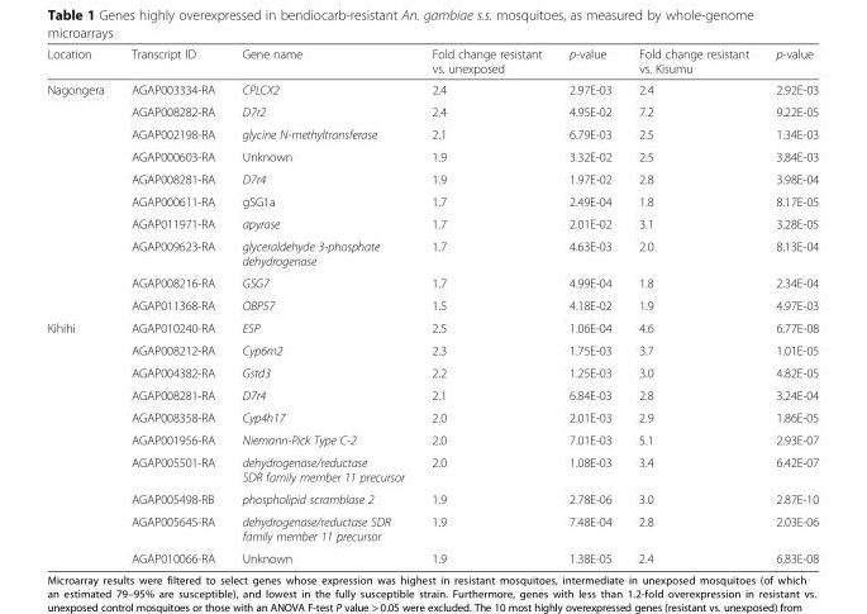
<table><thead><tr><td>Location</td><td>Transcript ID</td><td>Gene name</td><td>Fold change resistant vs. unexposed</td><td>p-value</td><td>Fold change resistant vs. Kisumu</td><td>p-value</td></tr></thead><tbody><tr><td rowspan="10">Nagongera</td><td>AGAP003334-RA</td><td>CPLCX2</td><td>2.4</td><td>2.97E-03</td><td>2.4</td><td>2.92E-03</td></tr><tr><td>AGAP008282-RA</td><td>D7r2</td><td>2.4</td><td>4.95E-02</td><td>7.2</td><td>9.22E-05</td></tr><tr><td>AGAP002198-RA</td><td>glycine N-methyltransferase</td><td>2.1</td><td>6.79E-03</td><td>2.5</td><td>1.34E-03</td></tr><tr><td>AGAP000603-RA</td><td>Unknown</td><td>1.9</td><td>3.32E-02</td><td>2.5</td><td>3.84E-03</td></tr><tr><td>AGAP008281-RA</td><td>D7r4</td><td>1.9</td><td>1.97E-02</td><td>2.8</td><td>3.98E-04</td></tr><tr><td>AGAP000611-RA</td><td>gSG1a</td><td>1.7</td><td>2.49E-04</td><td>1.8</td><td>8.17E-05</td></tr><tr><td>AGAP011971-RA</td><td>apyrase</td><td>1.7</td><td>2.01E-02</td><td>3.1</td><td>3.28E-05</td></tr><tr><td>AGAP009623-RA</td><td>glyceraldehyde 3-phosphate dehydrogenase</td><td>1.7</td><td>4.63E-03</td><td>2.0</td><td>8.13E-04</td></tr><tr><td>AGAP008216-RA</td><td>GSG7</td><td>1.7</td><td>4.99E-04</td><td>1.8</td><td>2.34E-04</td></tr><tr><td>AGAP011368-RA</td><td>OBP57</td><td>1.5</td><td>4.18E-02</td><td>1.9</td><td>4.97E-03</td></tr><tr><td rowspan="10">Kihihi</td><td>AGAP010240-RA</td><td>ESP</td><td>2.5</td><td>1.06E-04</td><td>4.6</td><td>6.77E-08</td></tr><tr><td>AGAP008212-RA</td><td>Cyp6m2</td><td>2.3</td><td>1.75E-03</td><td>3.7</td><td>1.01E-05</td></tr><tr><td>AGAP004382-RA</td><td>Gstd3</td><td>2.2</td><td>1.25E-03</td><td>3.0</td><td>4.82E-05</td></tr><tr><td>AGAP008281-RA</td><td>D7r4</td><td>2.1</td><td>6.84E-03</td><td>2.8</td><td>3.24E-04</td></tr><tr><td>AGAP008358-RA</td><td>Cyp4h17</td><td>2.0</td><td>2.01E-03</td><td>2.9</td><td>1.86E-05</td></tr><tr><td>AGAP001956-RA</td><td>Niemann-Pick Type C-2</td><td>2.0</td><td>7.01E-03</td><td>5.1</td><td>2.93E-07</td></tr><tr><td>AGAP005501-RA</td><td>dehydrogenase/reductase SDR family member 11 precursor</td><td>2.0</td><td>1.08E-03</td><td>3.4</td><td>6.42E-07</td></tr><tr><td>AGAP005498-RB</td><td>phospholipid scramblase 2</td><td>1.9</td><td>2.78E-06</td><td>3.0</td><td>2.87E-10</td></tr><tr><td>AGAP005645-RA</td><td>dehydrogenase/reductase SDR family member 11 precursor</td><td>1.9</td><td>7.48E-04</td><td>2.8</td><td>2.03E-06</td></tr><tr><td>AGAP010066-RA</td><td>Unknown</td><td>1.9</td><td>1.38E-05</td><td>2.4</td><td>6.83E-08</td></tr></tbody></table>